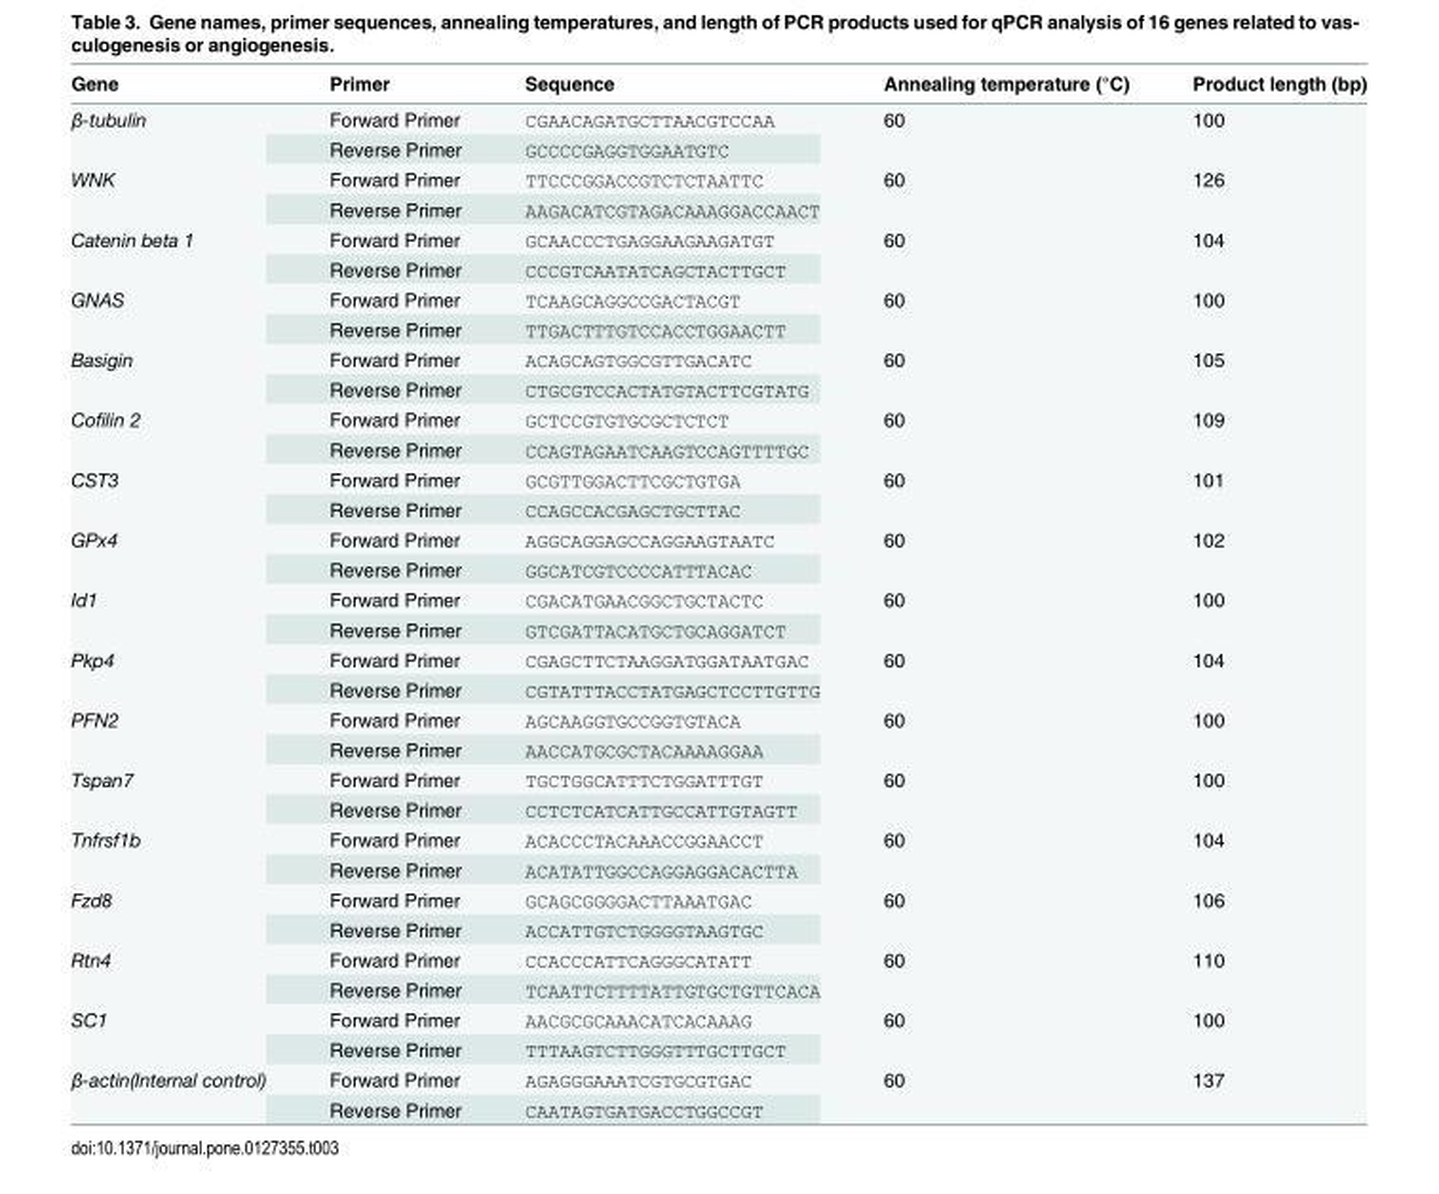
<table><thead><tr><td>Gene</td><td>Primer</td><td>Sequence</td><td>Annealing temperature (°C)</td><td>Product length (bp)</td></tr></thead><tbody><tr><td rowspan="2">β-tubulin</td><td>Forward Primer</td><td>CGAACAGATGCTTAACGTCCAA</td><td rowspan="2">60</td><td rowspan="2">100</td></tr><tr><td>Reverse Primer</td><td>GCCCCGAGGTGGAATGTC</td></tr><tr><td rowspan="2">WNK</td><td>Forward Primer</td><td>TTCCCGGACCGTCTCTAATTC</td><td rowspan="2">60</td><td rowspan="2">126</td></tr><tr><td>Reverse Primer</td><td>AAGACATCGTAGACAAAGGACCAACT</td></tr><tr><td rowspan="2">Catenin beta 1</td><td>Forward Primer</td><td>GCAACCCTGAGGAAGAAGATGT</td><td rowspan="2">60</td><td rowspan="2">104</td></tr><tr><td>Reverse Primer</td><td>CCCGTCAATATCAGCTACTTGCT</td></tr><tr><td rowspan="2">GNAS</td><td>Forward Primer</td><td>TCAAGCAGGCCGACTACGT</td><td rowspan="2">60</td><td rowspan="2">100</td></tr><tr><td>Reverse Primer</td><td>TTGACTTTGTCCACCTGGAACTT</td></tr><tr><td rowspan="2">Basigin</td><td>Forward Primer</td><td>ACAGCAGTGGCGTTGACATC</td><td rowspan="2">60</td><td rowspan="2">105</td></tr><tr><td>Reverse Primer</td><td>CTGCGTCCACTATGTACTTCGTATG</td></tr><tr><td rowspan="2">Cofilin 2</td><td>Forward Primer</td><td>GCTCCGTGTGCGCTCTCT</td><td rowspan="2">60</td><td rowspan="2">109</td></tr><tr><td>Reverse Primer</td><td>CCAGTAGAATCAAGTCCAGTTTTGC</td></tr><tr><td rowspan="2">CST3</td><td>Forward Primer</td><td>GCGTTGGACTTCGCTGTGA</td><td rowspan="2">60</td><td rowspan="2">101</td></tr><tr><td>Reverse Primer</td><td>CCAGCCACGAGCTGCTTAC</td></tr><tr><td rowspan="2">GPx4</td><td>Forward Primer</td><td>AGGCAGGAGCCAGGAAGTAATC</td><td rowspan="2">60</td><td rowspan="2">102</td></tr><tr><td>Reverse Primer</td><td>GGCATCGTCCCCATTTACAC</td></tr><tr><td rowspan="2">Id1</td><td>Forward Primer</td><td>CGACATGAACGGCTGCTACTC</td><td rowspan="2">60</td><td rowspan="2">100</td></tr><tr><td>Reverse Primer</td><td>GTCGATTACATGCTGCAGGATCT</td></tr><tr><td rowspan="2">Pkp4</td><td>Forward Primer</td><td>CGAGCTTCTAAGGATGGATAATGAC</td><td rowspan="2">60</td><td rowspan="2">104</td></tr><tr><td>Reverse Primer</td><td>CGTATTTACCTATGAGCTCCTTGTTG</td></tr><tr><td rowspan="2">PFN2</td><td>Forward Primer</td><td>AGCAAGGTGCCGGTGTACA</td><td rowspan="2">60</td><td rowspan="2">100</td></tr><tr><td>Reverse Primer</td><td>AACCATGCGCTACAAAAGGAA</td></tr><tr><td rowspan="2">Tspan7</td><td>Forward Primer</td><td>TGCTGGCATTTCTGGATTTGT</td><td rowspan="2">60</td><td rowspan="2">100</td></tr><tr><td>Reverse Primer</td><td>CCTCTCATCATTGCCATTGTAGTT</td></tr><tr><td rowspan="2">Tnfrsf1b</td><td>Forward Primer</td><td>ACACCCTACAAACCGGAACCT</td><td rowspan="2">60</td><td rowspan="2">104</td></tr><tr><td>Reverse Primer</td><td>ACATATTGGCCAGGAGGACACTTA</td></tr><tr><td rowspan="2">Fzd8</td><td>Forward Primer</td><td>GCAGCGGGGACTTAAATGAC</td><td rowspan="2">60</td><td rowspan="2">106</td></tr><tr><td>Reverse Primer</td><td>ACCATTGTCTGGGGTAAGTGC</td></tr><tr><td rowspan="2">Rtn4</td><td>Forward Primer</td><td>CCACCCATTCAGGGCATATT</td><td rowspan="2">60</td><td rowspan="2">110</td></tr><tr><td>Reverse Primer</td><td>TCAATTCTTTTATTGTGCTGTTCACA</td></tr><tr><td rowspan="2">SC1</td><td>Forward Primer</td><td>AACGCGCAAACATCACAAAG</td><td rowspan="2">60</td><td rowspan="2">100</td></tr><tr><td>Reverse Primer</td><td>TTTAAGTCTTGGGTTTGCTTGCT</td></tr><tr><td rowspan="2">β-actin(Internal control)</td><td>Forward Primer</td><td>AGAGGGAAATCGTGCGTGAC</td><td rowspan="2">60</td><td rowspan="2">137</td></tr><tr><td>Reverse Primer</td><td>CAATAGTGATGACCTGGCCGT</td></tr></tbody></table>